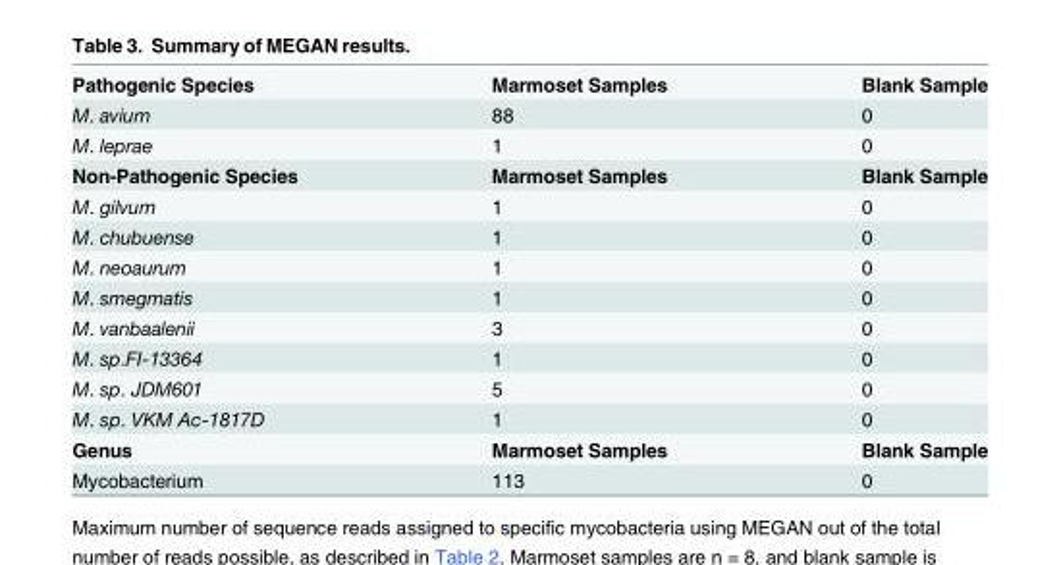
<table><tbody><tr><td>Pathogenic Species</td><td>Marmoset Samples</td><td>Blank Sample</td></tr><tr><td>M. avium</td><td>88</td><td>0</td></tr><tr><td>M. leprae</td><td>1</td><td>0</td></tr><tr><td>Non-Pathogenic Species</td><td>Marmoset Samples</td><td>Blank Sample</td></tr><tr><td>M. gilvum</td><td>1</td><td>0</td></tr><tr><td>M. chubuense</td><td>1</td><td>0</td></tr><tr><td>M. neoaurum</td><td>1</td><td>0</td></tr><tr><td>M. smegmatis</td><td>1</td><td>0</td></tr><tr><td>M. vanbaalenii</td><td>3</td><td>0</td></tr><tr><td>M. sp.FI-13364</td><td>1</td><td>0</td></tr><tr><td>M. sp. JDM601</td><td>5</td><td>0</td></tr><tr><td>M. sp. VKM Ac-1817D</td><td>1</td><td>0</td></tr><tr><td>Genus</td><td>Marmoset Samples</td><td>Blank Sample</td></tr><tr><td>Mycobacterium</td><td>113</td><td>0</td></tr></tbody></table>